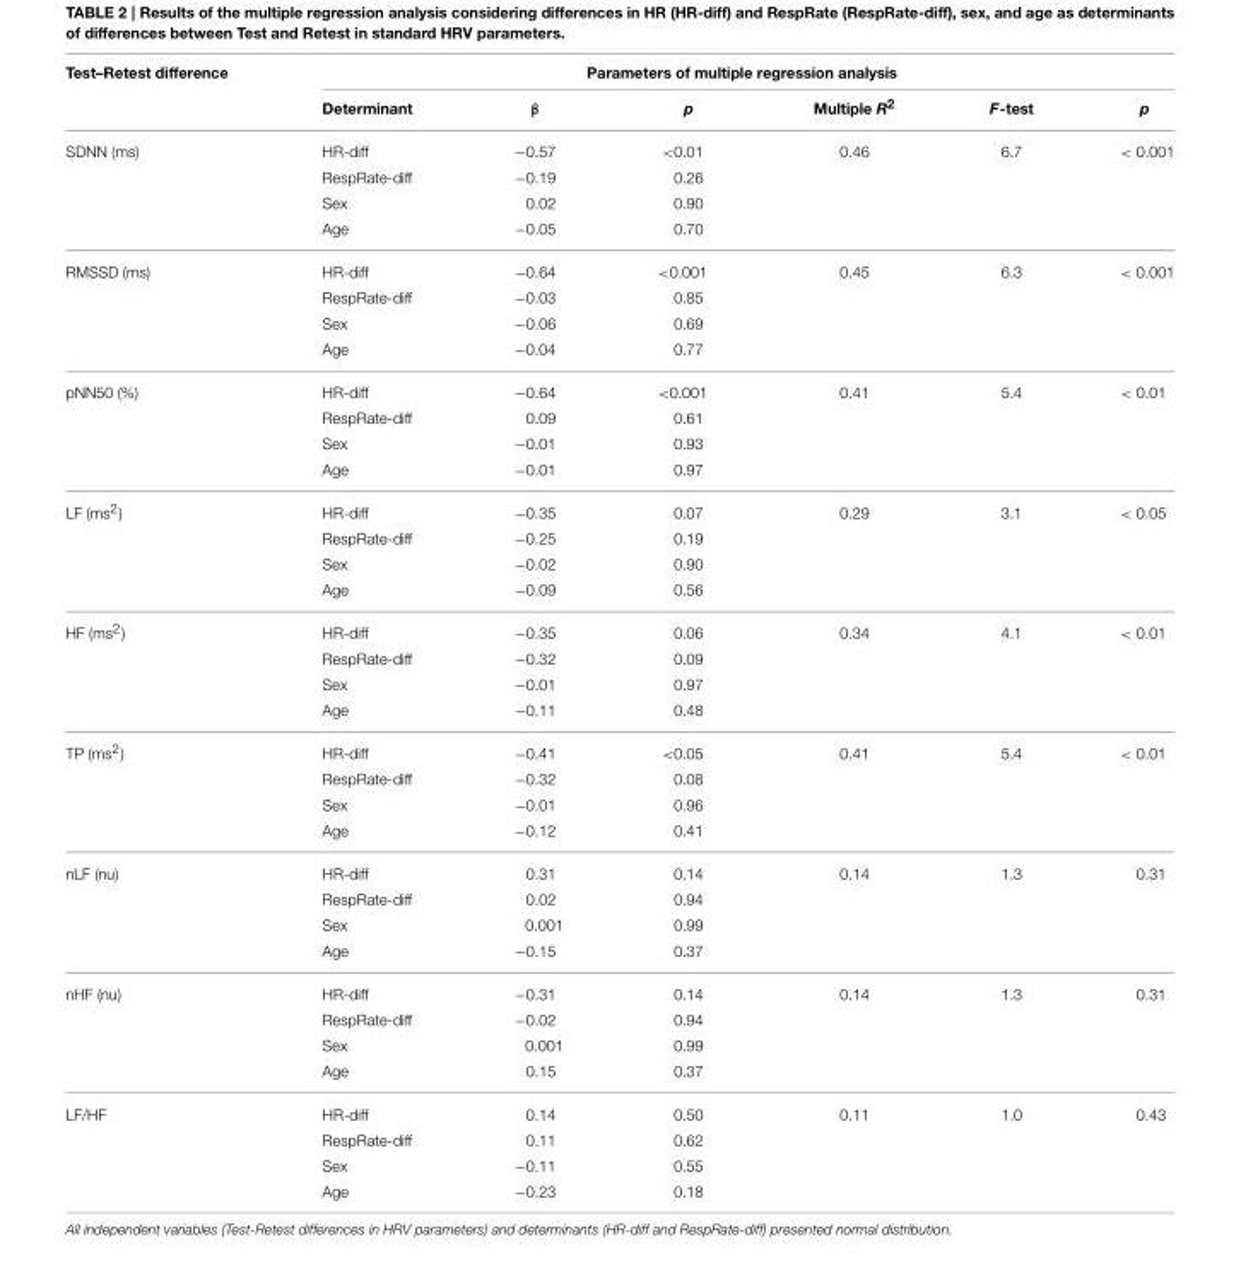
<table><thead><tr><td rowspan="2">Test–Retest difference</td><td colspan="6">Parameters of multiple regression analysis</td></tr><tr><td>Determinant</td><td>β</td><td>p</td><td>Multiple R<sup>2</sup></td><td>F-test</td><td>p</td></tr></thead><tbody><tr><td rowspan="4">SDNN (ms)</td><td>HR-diff</td><td>−0.57</td><td>&lt;0.01</td><td>0.46</td><td>6.7</td><td>&lt; 0.001</td></tr><tr><td>RespRate-diff</td><td>−0.19</td><td>0.26</td><td></td><td></td><td></td></tr><tr><td>Sex</td><td>0.02</td><td>0.90</td><td></td><td></td><td></td></tr><tr><td>Age</td><td>−0.05</td><td>0.70</td><td></td><td></td><td></td></tr><tr><td rowspan="4">RMSSD (ms)</td><td>HR-diff</td><td>−0.64</td><td>&lt;0.001</td><td>0.45</td><td>6.3</td><td>&lt; 0.001</td></tr><tr><td>RespRate-diff</td><td>−0.03</td><td>0.85</td><td></td><td></td><td></td></tr><tr><td>Sex</td><td>−0.06</td><td>0.69</td><td></td><td></td><td></td></tr><tr><td>Age</td><td>−0.04</td><td>0.77</td><td></td><td></td><td></td></tr><tr><td rowspan="4">pNN50 (%)</td><td>HR-diff</td><td>−0.64</td><td>&lt;0.001</td><td>0.41</td><td>5.4</td><td>&lt; 0.01</td></tr><tr><td>RespRate-diff</td><td>0.09</td><td>0.61</td><td></td><td></td><td></td></tr><tr><td>Sex</td><td>−0.01</td><td>0.93</td><td></td><td></td><td></td></tr><tr><td>Age</td><td>−0.01</td><td>0.97</td><td></td><td></td><td></td></tr><tr><td rowspan="4">LF (ms<sup>2</sup>)</td><td>HR-diff</td><td>−0.35</td><td>0.07</td><td>0.29</td><td>3.1</td><td>&lt; 0.05</td></tr><tr><td>RespRate-diff</td><td>−0.25</td><td>0.19</td><td></td><td></td><td></td></tr><tr><td>Sex</td><td>−0.02</td><td>0.90</td><td></td><td></td><td></td></tr><tr><td>Age</td><td>−0.09</td><td>0.56</td><td></td><td></td><td></td></tr><tr><td rowspan="4">HF (ms<sup>2</sup>)</td><td>HR-diff</td><td>−0.35</td><td>0.06</td><td>0.34</td><td>4.1</td><td>&lt; 0.01</td></tr><tr><td>RespRate-diff</td><td>−0.32</td><td>0.09</td><td></td><td></td><td></td></tr><tr><td>Sex</td><td>−0.01</td><td>0.97</td><td></td><td></td><td></td></tr><tr><td>Age</td><td>−0.11</td><td>0.48</td><td></td><td></td><td></td></tr><tr><td rowspan="4">TP (ms<sup>2</sup>)</td><td>HR-diff</td><td>−0.41</td><td>&lt;0.05</td><td>0.41</td><td>5.4</td><td>&lt; 0.01</td></tr><tr><td>RespRate-diff</td><td>−0.32</td><td>0.08</td><td></td><td></td><td></td></tr><tr><td>Sex</td><td>−0.01</td><td>0.96</td><td></td><td></td><td></td></tr><tr><td>Age</td><td>−0.12</td><td>0.41</td><td></td><td></td><td></td></tr><tr><td rowspan="4">nLF (nu)</td><td>HR-diff</td><td>0.31</td><td>0.14</td><td>0.14</td><td>1.3</td><td>0.31</td></tr><tr><td>RespRate-diff</td><td>0.02</td><td>0.94</td><td></td><td></td><td></td></tr><tr><td>Sex</td><td>0.001</td><td>0.99</td><td></td><td></td><td></td></tr><tr><td>Age</td><td>−0.15</td><td>0.37</td><td></td><td></td><td></td></tr><tr><td rowspan="4">nHF (nu)</td><td>HR-diff</td><td>−0.31</td><td>0.14</td><td>0.14</td><td>1.3</td><td>0.31</td></tr><tr><td>RespRate-diff</td><td>−0.02</td><td>0.94</td><td></td><td></td><td></td></tr><tr><td>Sex</td><td>0.001</td><td>0.99</td><td></td><td></td><td></td></tr><tr><td>Age</td><td>0.15</td><td>0.37</td><td></td><td></td><td></td></tr><tr><td rowspan="4">LF/HF</td><td>HR-diff</td><td>0.14</td><td>0.50</td><td>0.11</td><td>1.0</td><td>0.43</td></tr><tr><td>RespRate-diff</td><td>0.11</td><td>0.62</td><td></td><td></td><td></td></tr><tr><td>Sex</td><td>−0.11</td><td>0.55</td><td></td><td></td><td></td></tr><tr><td>Age</td><td>−0.23</td><td>0.18</td><td></td><td></td><td></td></tr></tbody></table>